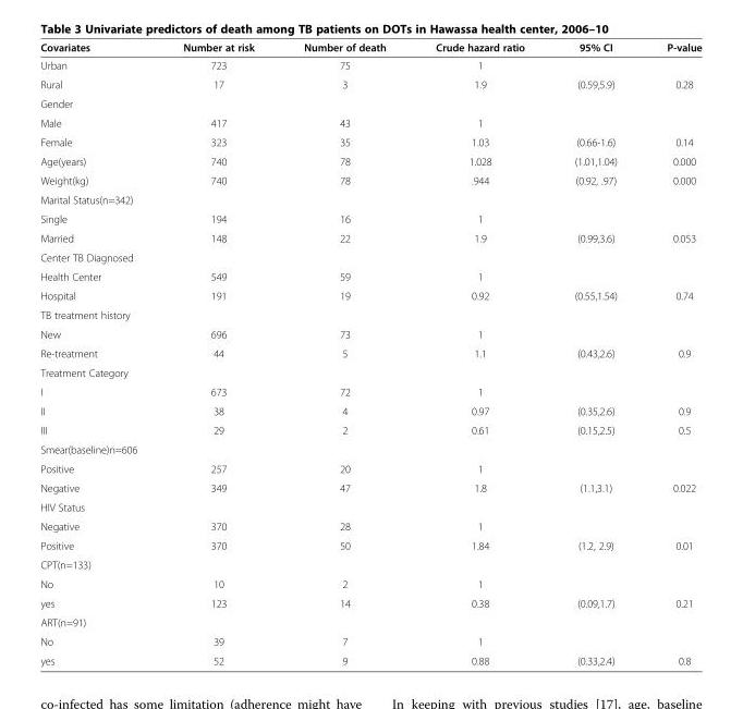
<table><thead><tr><td>Covariates</td><td>Number at risk</td><td>Number of death</td><td>Crude hazard ratio</td><td>95% CI</td><td>P-value</td></tr></thead><tbody><tr><td>Urban</td><td>723</td><td>75</td><td>1</td><td></td><td></td></tr><tr><td>Rural</td><td>17</td><td>3</td><td>1.9</td><td>(0.59,5.9)</td><td>0.28</td></tr><tr><td colspan="6">Gender</td></tr><tr><td>Male</td><td>417</td><td>43</td><td>1</td><td></td><td></td></tr><tr><td>Female</td><td>323</td><td>35</td><td>1.03</td><td>(0.66-1.6)</td><td>0.14</td></tr><tr><td>Age(years)</td><td>740</td><td>78</td><td>1.028</td><td>(1.01,1.04)</td><td>0.000</td></tr><tr><td>Weight(kg)</td><td>740</td><td>78</td><td>.944</td><td>(0.92, .97)</td><td>0.000</td></tr><tr><td colspan="6">Marital Status(n=342)</td></tr><tr><td>Single</td><td>194</td><td>16</td><td>1</td><td></td><td></td></tr><tr><td>Married</td><td>148</td><td>22</td><td>1.9</td><td>(0.99,3.6)</td><td>0.053</td></tr><tr><td colspan="6">Center TB Diagnosed</td></tr><tr><td>Health Center</td><td>549</td><td>59</td><td>1</td><td></td><td></td></tr><tr><td>Hospital</td><td>191</td><td>19</td><td>0.92</td><td>(0.55,1.54)</td><td>0.74</td></tr><tr><td colspan="6">TB treatment history</td></tr><tr><td>New</td><td>696</td><td>73</td><td>1</td><td></td><td></td></tr><tr><td>Re-treatment</td><td>44</td><td>5</td><td>1.1</td><td>(0.43,2.6)</td><td>0.9</td></tr><tr><td colspan="6">Treatment Category</td></tr><tr><td>I</td><td>673</td><td>72</td><td>1</td><td></td><td></td></tr><tr><td>II</td><td>38</td><td>4</td><td>0.97</td><td>(0.35,2.6)</td><td>0.9</td></tr><tr><td>III</td><td>29</td><td>2</td><td>0.61</td><td>(0.15,2.5)</td><td>0.5</td></tr><tr><td colspan="6">Smear(baseline)n=606</td></tr><tr><td>Positive</td><td>257</td><td>20</td><td>1</td><td></td><td></td></tr><tr><td>Negative</td><td>349</td><td>47</td><td>1.8</td><td>(1.1,3.1)</td><td>0.022</td></tr><tr><td colspan="6">HIV Status</td></tr><tr><td>Negative</td><td>370</td><td>28</td><td>1</td><td></td><td></td></tr><tr><td>Positive</td><td>370</td><td>50</td><td>1.84</td><td>(1.2, 2.9)</td><td>0.01</td></tr><tr><td colspan="6">CPT(n=133)</td></tr><tr><td>No</td><td>10</td><td>2</td><td>1</td><td></td><td></td></tr><tr><td>yes</td><td>123</td><td>14</td><td>0.38</td><td>(0.09,1.7)</td><td>0.21</td></tr><tr><td colspan="6">ART(n=91)</td></tr><tr><td>No</td><td>39</td><td>7</td><td>1</td><td></td><td></td></tr><tr><td>yes</td><td>52</td><td>9</td><td>0.88</td><td>(0.33,2.4)</td><td>0.8</td></tr></tbody></table>